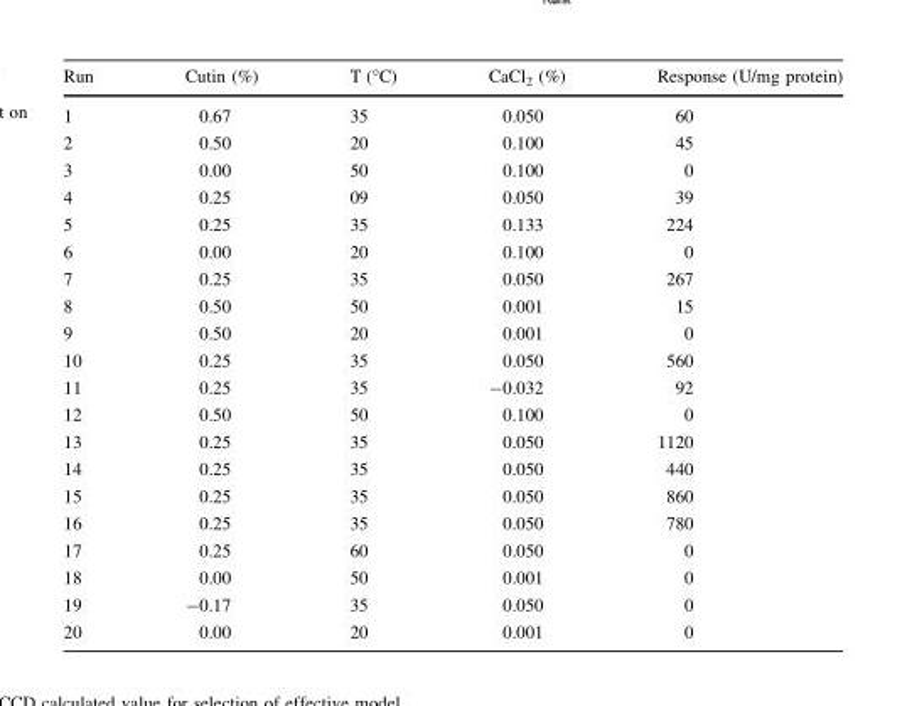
<table><thead><tr><td>Run</td><td>Cutin (%)</td><td>T (°C)</td><td>CaCl<sub>2</sub> (%)</td><td>Response (U/mg protein)</td></tr></thead><tbody><tr><td>1</td><td>0.67</td><td>35</td><td>0.050</td><td>60</td></tr><tr><td>2</td><td>0.50</td><td>20</td><td>0.100</td><td>45</td></tr><tr><td>3</td><td>0.00</td><td>50</td><td>0.100</td><td>0</td></tr><tr><td>4</td><td>0.25</td><td>09</td><td>0.050</td><td>39</td></tr><tr><td>5</td><td>0.25</td><td>35</td><td>0.133</td><td>224</td></tr><tr><td>6</td><td>0.00</td><td>20</td><td>0.100</td><td>0</td></tr><tr><td>7</td><td>0.25</td><td>35</td><td>0.050</td><td>267</td></tr><tr><td>8</td><td>0.50</td><td>50</td><td>0.001</td><td>15</td></tr><tr><td>9</td><td>0.50</td><td>20</td><td>0.001</td><td>0</td></tr><tr><td>10</td><td>0.25</td><td>35</td><td>0.050</td><td>560</td></tr><tr><td>11</td><td>0.25</td><td>35</td><td>-0.032</td><td>92</td></tr><tr><td>12</td><td>0.50</td><td>50</td><td>0.100</td><td>0</td></tr><tr><td>13</td><td>0.25</td><td>35</td><td>0.050</td><td>1120</td></tr><tr><td>14</td><td>0.25</td><td>35</td><td>0.050</td><td>440</td></tr><tr><td>15</td><td>0.25</td><td>35</td><td>0.050</td><td>860</td></tr><tr><td>16</td><td>0.25</td><td>35</td><td>0.050</td><td>780</td></tr><tr><td>17</td><td>0.25</td><td>60</td><td>0.050</td><td>0</td></tr><tr><td>18</td><td>0.00</td><td>50</td><td>0.001</td><td>0</td></tr><tr><td>19</td><td>-0.17</td><td>35</td><td>0.050</td><td>0</td></tr><tr><td>20</td><td>0.00</td><td>20</td><td>0.001</td><td>0</td></tr></tbody></table>